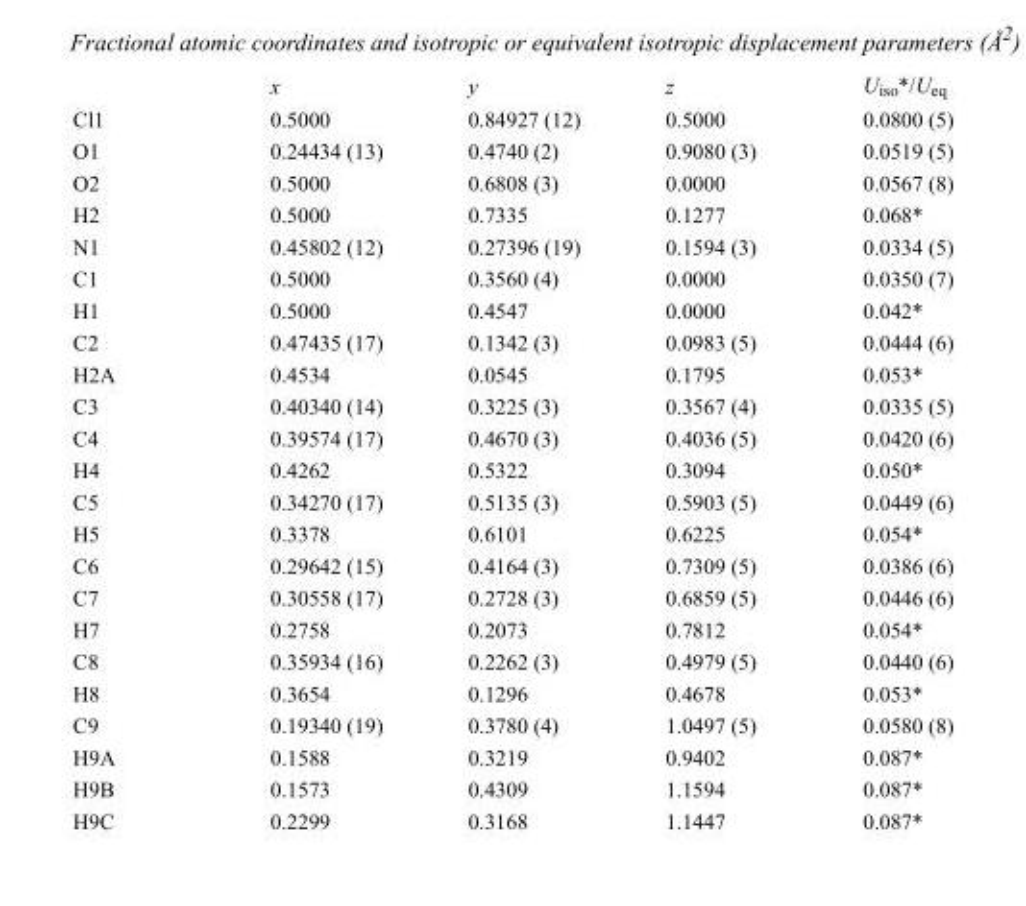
<table><thead><tr><td></td><td>x</td><td>y</td><td>z</td><td>U<sub>iso</sub>*/U<sub>eq</sub></td></tr></thead><tbody><tr><td>Cl1</td><td>0.5000</td><td>0.84927 (12)</td><td>0.5000</td><td>0.0800 (5)</td></tr><tr><td>O1</td><td>0.24434 (13)</td><td>0.4740 (2)</td><td>0.9080 (3)</td><td>0.0519 (5)</td></tr><tr><td>O2</td><td>0.5000</td><td>0.6808 (3)</td><td>0.0000</td><td>0.0567 (8)</td></tr><tr><td>H2</td><td>0.5000</td><td>0.7335</td><td>0.1277</td><td>0.068*</td></tr><tr><td>N1</td><td>0.45802 (12)</td><td>0.27396 (19)</td><td>0.1594 (3)</td><td>0.0334 (5)</td></tr><tr><td>C1</td><td>0.5000</td><td>0.3560 (4)</td><td>0.0000</td><td>0.0350 (7)</td></tr><tr><td>H1</td><td>0.5000</td><td>0.4547</td><td>0.0000</td><td>0.042*</td></tr><tr><td>C2</td><td>0.47435 (17)</td><td>0.1342 (3)</td><td>0.0983 (5)</td><td>0.0444 (6)</td></tr><tr><td>H2A</td><td>0.4534</td><td>0.0545</td><td>0.1795</td><td>0.053*</td></tr><tr><td>C3</td><td>0.40340 (14)</td><td>0.3225 (3)</td><td>0.3567 (4)</td><td>0.0335 (5)</td></tr><tr><td>C4</td><td>0.39574 (17)</td><td>0.4670 (3)</td><td>0.4036 (5)</td><td>0.0420 (6)</td></tr><tr><td>H4</td><td>0.4262</td><td>0.5322</td><td>0.3094</td><td>0.050*</td></tr><tr><td>C5</td><td>0.34270 (17)</td><td>0.5135 (3)</td><td>0.5903 (5)</td><td>0.0449 (6)</td></tr><tr><td>H5</td><td>0.3378</td><td>0.6101</td><td>0.6225</td><td>0.054*</td></tr><tr><td>C6</td><td>0.29642 (15)</td><td>0.4164 (3)</td><td>0.7309 (5)</td><td>0.0386 (6)</td></tr><tr><td>C7</td><td>0.30558 (17)</td><td>0.2728 (3)</td><td>0.6859 (5)</td><td>0.0446 (6)</td></tr><tr><td>H7</td><td>0.2758</td><td>0.2073</td><td>0.7812</td><td>0.054*</td></tr><tr><td>C8</td><td>0.35934 (16)</td><td>0.2262 (3)</td><td>0.4979 (5)</td><td>0.0440 (6)</td></tr><tr><td>H8</td><td>0.3654</td><td>0.1296</td><td>0.4678</td><td>0.053*</td></tr><tr><td>C9</td><td>0.19340 (19)</td><td>0.3780 (4)</td><td>1.0497 (5)</td><td>0.0580 (8)</td></tr><tr><td>H9A</td><td>0.1588</td><td>0.3219</td><td>0.9402</td><td>0.087*</td></tr><tr><td>H9B</td><td>0.1573</td><td>0.4309</td><td>1.1594</td><td>0.087*</td></tr><tr><td>H9C</td><td>0.2299</td><td>0.3168</td><td>1.1447</td><td>0.087*</td></tr></tbody></table>